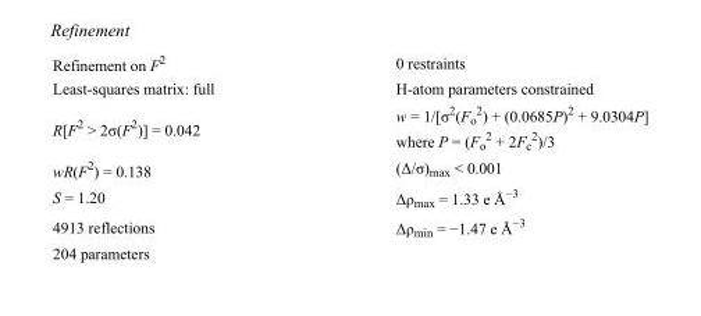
<table><tbody><tr><td>Refinement on F<sup>2</sup></td><td>0 restraints</td></tr><tr><td>Least-squares matrix: full</td><td>H-atom parameters constrained</td></tr><tr><td>R[F<sup>2</sup> &gt; 2σ(F<sup>2</sup>)] = 0.042</td><td>w = 1/[σ<sup>2</sup>(F<sub>o</sub> <sup>2</sup>) + (0.0685P)<sup>2</sup> + 9.0304P] where P = (F<sub>o</sub> <sup>2</sup> + 2F<sub>c</sub> <sup>2</sup>)/3</td></tr><tr><td>wR(F<sup>2</sup>) = 0.138</td><td>(Δ/σ)<sub>max</sub> &lt; 0.001</td></tr><tr><td>S = 1.20</td><td>Δρ<sub>max</sub> = 1.33 e Å<sup>−3</sup></td></tr><tr><td>4913 reflections</td><td>Δρ<sub>min</sub> = −1.47 e Å<sup>−3</sup></td></tr><tr><td>204 parameters</td><td></td></tr></tbody></table>